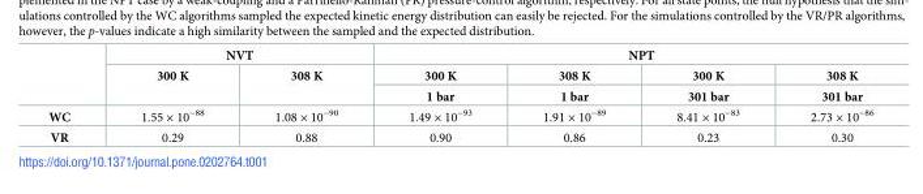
<table><thead><tr><td rowspan="3"></td><td colspan="2">NVT</td><td colspan="4">NPT</td></tr><tr><td rowspan="2">300 K</td><td rowspan="2">308 K</td><td rowspan="2">300 K 1 bar</td><td rowspan="2">308 K 1 bar</td><td rowspan="2">300 K 301 bar</td><td rowspan="2">308 K 301 bar</td></tr><tr></tr></thead><tbody><tr><td>WC</td><td>1.55 × 10<sup>−88</sup></td><td>1.08 × 10<sup>−90</sup></td><td>1.49 × 10<sup>−93</sup></td><td>1.91 × 10<sup>−89</sup></td><td>8.41 × 10<sup>−83</sup></td><td>2.73 × 10<sup>−86</sup></td></tr><tr><td>VR</td><td>0.29</td><td>0.88</td><td>0.90</td><td>0.86</td><td>0.23</td><td>0.30</td></tr></tbody></table>